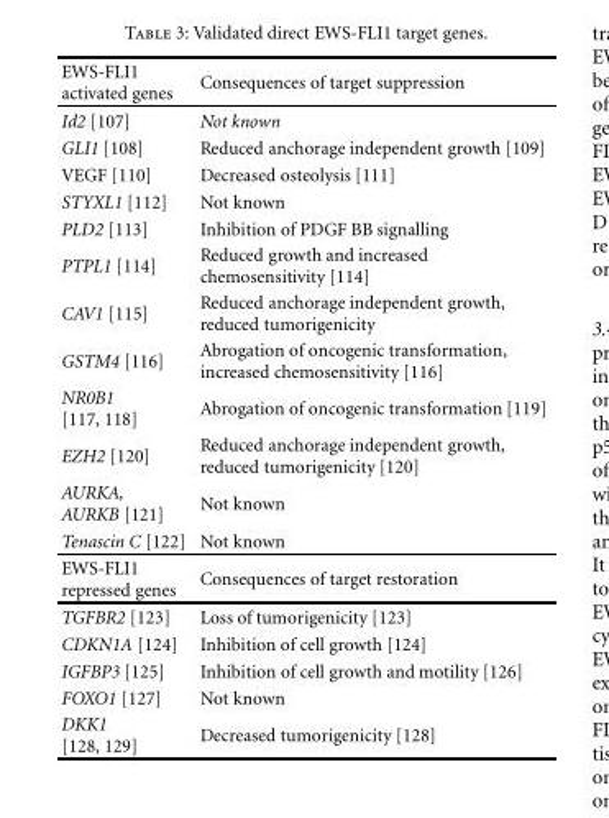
<table><thead><tr><td>EWS-FLI1 activated genes</td><td>Consequences of target suppression</td></tr></thead><tbody><tr><td>Id2 [107]</td><td>Not known</td></tr><tr><td>GLI1 [108]</td><td>Reduced anchorage independent growth [109]</td></tr><tr><td>VEGF [110]</td><td>Decreased osteolysis [111]</td></tr><tr><td>STYXL1 [112]</td><td>Not known</td></tr><tr><td>PLD2 [113]</td><td>Inhibition of PDGF BB signalling</td></tr><tr><td>PTPL1 [114]</td><td>Reduced growth and increased chemosensitivity [114]</td></tr><tr><td>CAV1 [115]</td><td>Reduced anchorage independent growth, reduced tumorigenicity</td></tr><tr><td>GSTM4 [116]</td><td>Abrogation of oncogenic transformation, increased chemosensitivity [116]</td></tr><tr><td>NR0B1 [117, 118]</td><td>Abrogation of oncogenic transformation [119]</td></tr><tr><td>EZH2 [120]</td><td>Reduced anchorage independent growth, reduced tumorigenicity [120]</td></tr><tr><td>AURKA, AURKB [121]</td><td>Not known</td></tr><tr><td>Tenascin C [122]</td><td>Not known</td></tr><tr><td>EWS-FLI1 repressed genes</td><td>Consequences of target restoration</td></tr><tr><td>TGFBR2 [123]</td><td>Loss of tumorigenicity [123]</td></tr><tr><td>CDKN1A [124]</td><td>Inhibition of cell growth [124]</td></tr><tr><td>IGFBP3 [125]</td><td>Inhibition of cell growth and motility [126]</td></tr><tr><td>FOXO1 [127]</td><td>Not known</td></tr><tr><td>DKK1 [128, 129]</td><td>Decreased tumorigenicity [128]</td></tr></tbody></table>